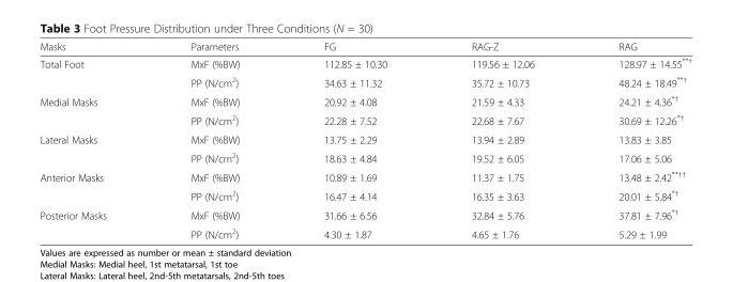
<table><thead><tr><td>Masks</td><td>Parameters</td><td>FG</td><td>RAG-Z</td><td>RAG</td></tr></thead><tbody><tr><td rowspan="2">Total Foot</td><td>MxF (%BW)</td><td>112.85 ± 10.30</td><td>119.56 ± 12.06</td><td>128.97 ± 14.55<sup>**†</sup></td></tr><tr><td>PP (N/cm<sup>2</sup>)</td><td>34.63 ± 11.32</td><td>35.72 ± 10.73</td><td>48.24 ± 18.49<sup>**†</sup></td></tr><tr><td rowspan="2">Medial Masks</td><td>MxF (%BW)</td><td>20.92 ± 4.08</td><td>21.59 ± 4.33</td><td>24.21 ± 4.36<sup>*†</sup></td></tr><tr><td>PP (N/cm<sup>2</sup>)</td><td>22.28 ± 7.52</td><td>22.68 ± 7.67</td><td>30.69 ± 12.26<sup>*†</sup></td></tr><tr><td rowspan="2">Lateral Masks</td><td>MxF (%BW)</td><td>13.75 ± 2.29</td><td>13.94 ± 2.89</td><td>13.83 ± 3.85</td></tr><tr><td>PP (N/cm<sup>2</sup>)</td><td>18.63 ± 4.84</td><td>19.52 ± 6.05</td><td>17.06 ± 5.06</td></tr><tr><td rowspan="2">Anterior Masks</td><td>MxF (%BW)</td><td>10.89 ± 1.69</td><td>11.37 ± 1.75</td><td>13.48 ± 2.42<sup>**††</sup></td></tr><tr><td>PP (N/cm<sup>2</sup>)</td><td>16.47 ± 4.14</td><td>16.35 ± 3.63</td><td>20.01 ± 5.84<sup>*†</sup></td></tr><tr><td rowspan="2">Posterior Masks</td><td>MxF (%BW)</td><td>31.66 ± 6.56</td><td>32.84 ± 5.76</td><td>37.81 ± 7.96<sup>*†</sup></td></tr><tr><td>PP (N/cm<sup>2</sup>)</td><td>4.30 ± 1.87</td><td>4.65 ± 1.76</td><td>5.29 ± 1.99</td></tr></tbody></table>